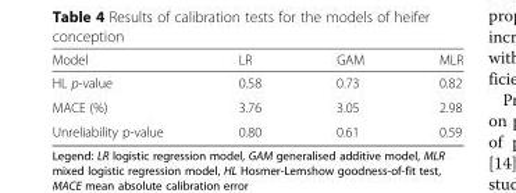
<table><thead><tr><td>Model</td><td>LR</td><td>GAM</td><td>MLR</td></tr></thead><tbody><tr><td>HL p-value</td><td>0.58</td><td>0.73</td><td>0.82</td></tr><tr><td>MACE (%)</td><td>3.76</td><td>3.05</td><td>2.98</td></tr><tr><td>Unreliability p-value</td><td>0.80</td><td>0.61</td><td>0.59</td></tr></tbody></table>